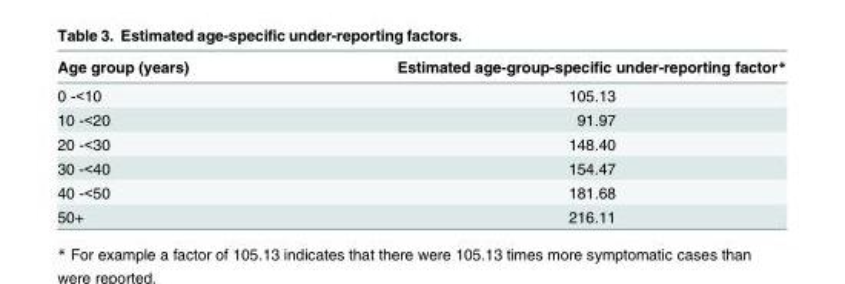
<table><thead><tr><td>Age group (years)</td><td>Estimated age-group-specific under-reporting factor*</td></tr></thead><tbody><tr><td>0 -&lt;10</td><td>105.13</td></tr><tr><td>10 -&lt;20</td><td>91.97</td></tr><tr><td>20 -&lt;30</td><td>148.40</td></tr><tr><td>30 -&lt;40</td><td>154.47</td></tr><tr><td>40 -&lt;50</td><td>181.68</td></tr><tr><td>50+</td><td>216.11</td></tr></tbody></table>